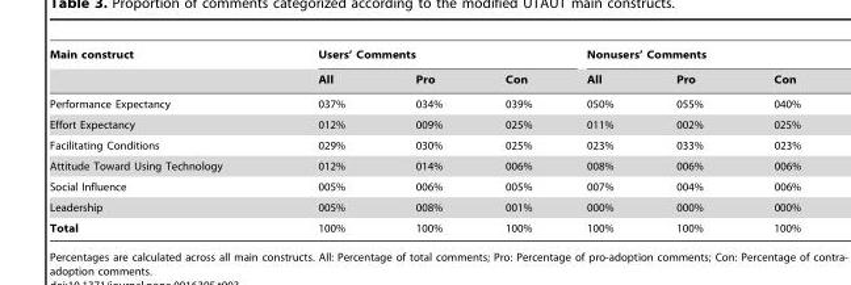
<table><thead><tr><td rowspan="2">Main construct</td><td colspan="3">Users’ Comments</td><td colspan="3">Nonusers’ Comments</td></tr><tr><td>All</td><td>Pro</td><td>Con</td><td>All</td><td>Pro</td><td>Con</td></tr></thead><tbody><tr><td>Performance Expectancy</td><td>037%</td><td>034%</td><td>039%</td><td>050%</td><td>055%</td><td>040%</td></tr><tr><td>Effort Expectancy</td><td>012%</td><td>009%</td><td>025%</td><td>011%</td><td>002%</td><td>025%</td></tr><tr><td>Facilitating Conditions</td><td>029%</td><td>030%</td><td>025%</td><td>023%</td><td>033%</td><td>023%</td></tr><tr><td>Attitude Toward Using Technology</td><td>012%</td><td>014%</td><td>006%</td><td>008%</td><td>006%</td><td>006%</td></tr><tr><td>Social Influence</td><td>005%</td><td>006%</td><td>005%</td><td>007%</td><td>004%</td><td>006%</td></tr><tr><td>Leadership</td><td>005%</td><td>008%</td><td>001%</td><td>000%</td><td>000%</td><td>000%</td></tr><tr><td>Total</td><td>100%</td><td>100%</td><td>100%</td><td>100%</td><td>100%</td><td>100%</td></tr></tbody></table>